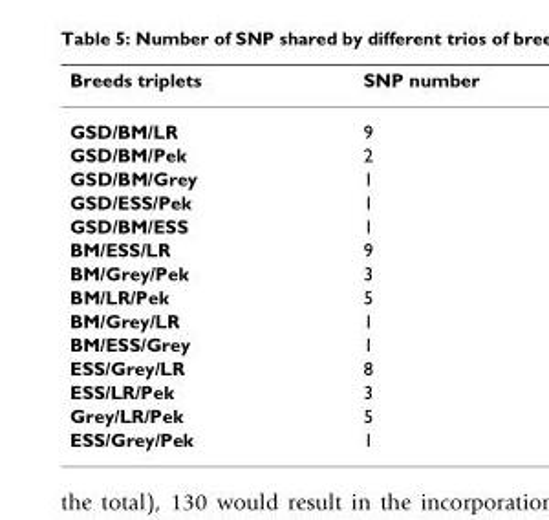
<table><thead><tr><td>Breeds triplets</td><td>SNP number</td></tr></thead><tbody><tr><td>GSD/BM/LR</td><td>9</td></tr><tr><td>GSD/BM/Pek</td><td>2</td></tr><tr><td>GSD/BM/Grey</td><td>1</td></tr><tr><td>GSD/ESS/Pek</td><td>1</td></tr><tr><td>GSD/BM/ESS</td><td>1</td></tr><tr><td>BM/ESS/LR</td><td>9</td></tr><tr><td>BM/Grey/Pek</td><td>3</td></tr><tr><td>BM/LR/Pek</td><td>5</td></tr><tr><td>BM/Grey/LR</td><td>1</td></tr><tr><td>BM/ESS/Grey</td><td>1</td></tr><tr><td>ESS/Grey/LR</td><td>8</td></tr><tr><td>ESS/LR/Pek</td><td>3</td></tr><tr><td>Grey/LR/Pek</td><td>5</td></tr><tr><td>ESS/Grey/Pek</td><td>1</td></tr></tbody></table>